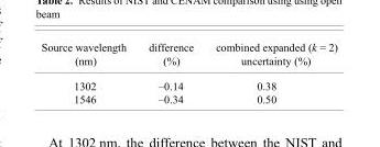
<table><thead><tr><td>Source wavelength (nm)</td><td>difference (%)</td><td>combined expanded (k = 2) uncertainty (%)</td></tr></thead><tbody><tr><td>1302</td><td>–0.14</td><td>0.38</td></tr><tr><td>1546</td><td>–0.34</td><td>0.50</td></tr></tbody></table>